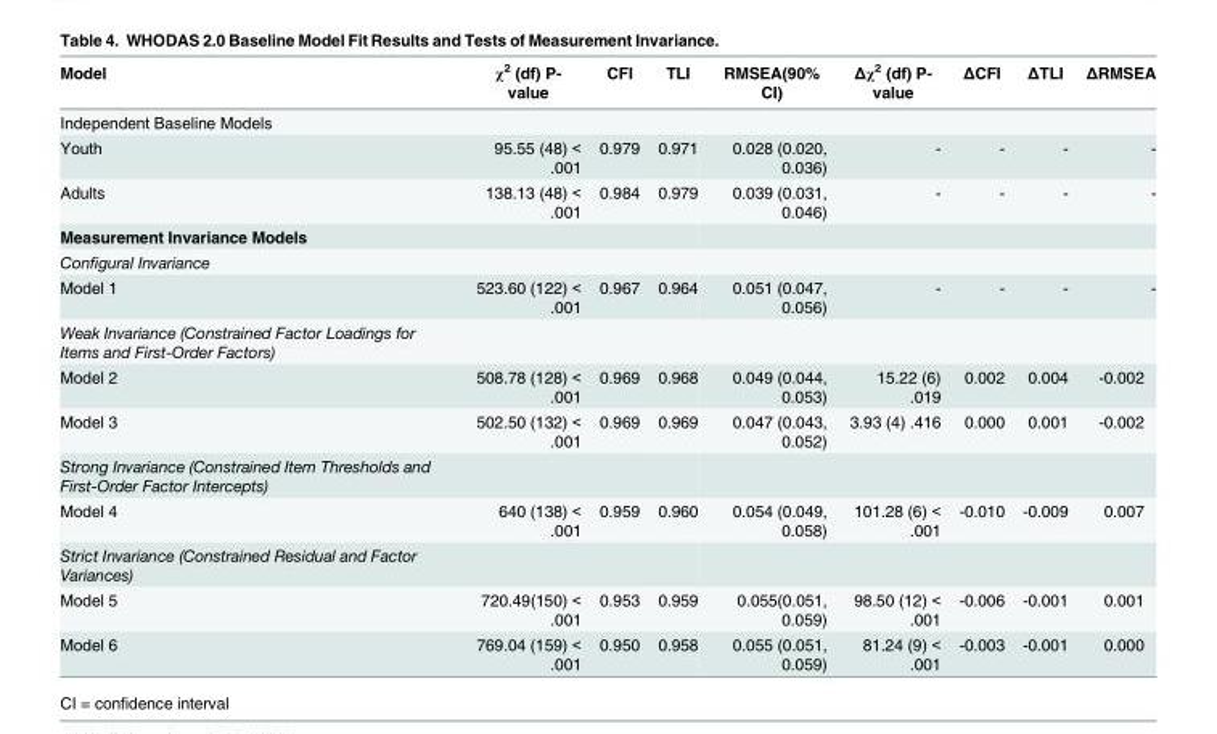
<table><thead><tr><td>Model</td><td>χ<sup>2</sup> (df) P- value</td><td>CFI</td><td>TLI</td><td>RMSEA(90% CI)</td><td>Δχ<sup>2</sup> (df) P- value</td><td>ΔCFI</td><td>ΔTLI</td><td>ΔRMSEA</td></tr></thead><tbody><tr><td colspan="9">Independent Baseline Models</td></tr><tr><td>Youth</td><td>95.55 (48) &lt; .001</td><td>0.979</td><td>0.971</td><td>0.028 (0.020, 0.036)</td><td>-</td><td>-</td><td>-</td><td>-</td></tr><tr><td>Adults</td><td>138.13 (48) &lt; .001</td><td>0.984</td><td>0.979</td><td>0.039 (0.031, 0.046)</td><td>-</td><td>-</td><td>-</td><td>-</td></tr><tr><td colspan="9">Measurement Invariance Models</td></tr><tr><td colspan="9">Configural Invariance</td></tr><tr><td>Model 1</td><td>523.60 (122) &lt; .001</td><td>0.967</td><td>0.964</td><td>0.051 (0.047, 0.056)</td><td>-</td><td>-</td><td>-</td><td>-</td></tr><tr><td colspan="9">Weak Invariance (Constrained Factor Loadings for Items and First-Order Factors)</td></tr><tr><td>Model 2</td><td>508.78 (128) &lt; .001</td><td>0.969</td><td>0.968</td><td>0.049 (0.044, 0.053)</td><td>15.22 (6) .019</td><td>0.002</td><td>0.004</td><td>-0.002</td></tr><tr><td>Model 3</td><td>502.50 (132) &lt; .001</td><td>0.969</td><td>0.969</td><td>0.047 (0.043, 0.052)</td><td>3.93 (4) .416</td><td>0.000</td><td>0.001</td><td>-0.002</td></tr><tr><td colspan="9">Strong Invariance (Constrained Item Thresholds and First-Order Factor Intercepts)</td></tr><tr><td>Model 4</td><td>640 (138) &lt; .001</td><td>0.959</td><td>0.960</td><td>0.054 (0.049, 0.058)</td><td>101.28 (6) &lt; .001</td><td>-0.010</td><td>-0.009</td><td>0.007</td></tr><tr><td colspan="9">Strict Invariance (Constrained Residual and Factor Variances)</td></tr><tr><td>Model 5</td><td>720.49(150) &lt; .001</td><td>0.953</td><td>0.959</td><td>0.055(0.051, 0.059)</td><td>98.50 (12) &lt; .001</td><td>-0.006</td><td>-0.001</td><td>0.001</td></tr><tr><td>Model 6</td><td>769.04 (159) &lt; .001</td><td>0.950</td><td>0.958</td><td>0.055 (0.051, 0.059)</td><td>81.24 (9) &lt; .001</td><td>-0.003</td><td>-0.001</td><td>0.000</td></tr></tbody></table>